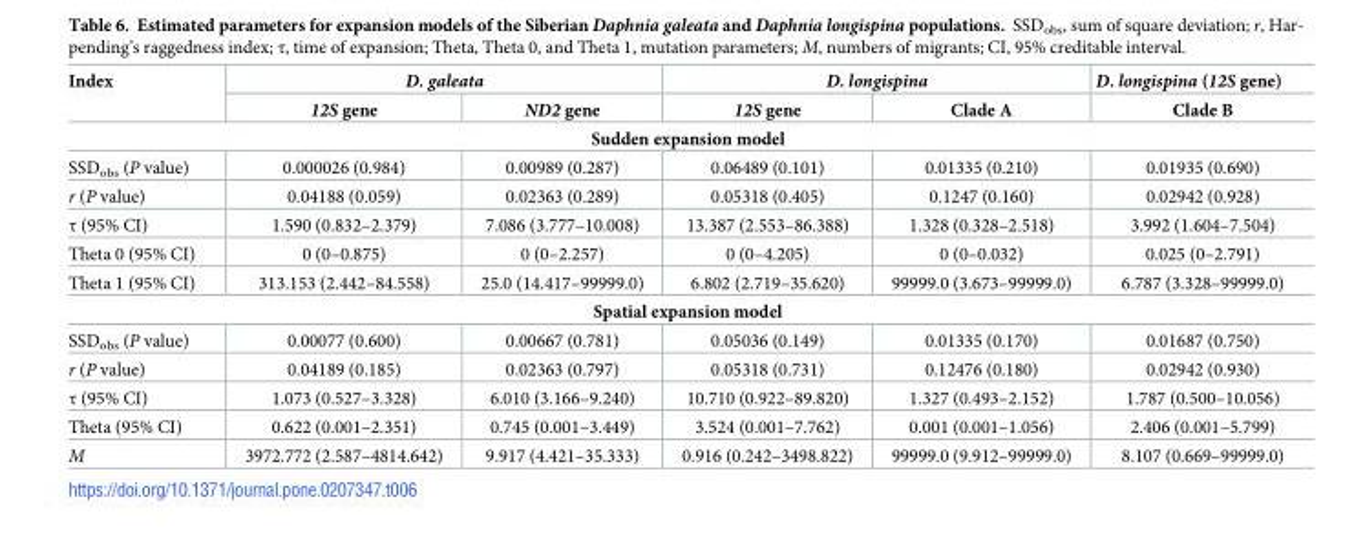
<table><thead><tr><td rowspan="2">Index</td><td colspan="2">D. galeata</td><td colspan="2">D. longispina</td><td rowspan="2">D. longispina (12S gene) Clade B</td></tr><tr><td>12S gene</td><td>ND2 gene</td><td>12S gene</td><td>Clade A</td></tr></thead><tbody><tr><td colspan="6">Sudden expansion model</td></tr><tr><td>SSD<sub>obs</sub> (P value)</td><td>0.000026 (0.984)</td><td>0.00989 (0.287)</td><td>0.06489 (0.101)</td><td>0.01335 (0.210)</td><td>0.01935 (0.690)</td></tr><tr><td>r (P value)</td><td>0.04188 (0.059)</td><td>0.02363 (0.289)</td><td>0.05318 (0.405)</td><td>0.1247 (0.160)</td><td>0.02942 (0.928)</td></tr><tr><td>τ (95% CI)</td><td>1.590 (0.832–2.379)</td><td>7.086 (3.777–10.008)</td><td>13.387 (2.553–86.388)</td><td>1.328 (0.328–2.518)</td><td>3.992 (1.604–7.504)</td></tr><tr><td>Theta 0 (95% CI)</td><td>0 (0–0.875)</td><td>0 (0–2.257)</td><td>0 (0–4.205)</td><td>0 (0–0.032)</td><td>0.025 (0–2.791)</td></tr><tr><td>Theta 1 (95% CI)</td><td>313.153 (2.442–84.558)</td><td>25.0 (14.417–99999.0)</td><td>6.802 (2.719–35.620)</td><td>99999.0 (3.673–99999.0)</td><td>6.787 (3.328–99999.0)</td></tr><tr><td colspan="6">Spatial expansion model</td></tr><tr><td>SSD<sub>obs</sub> (P value)</td><td>0.00077 (0.600)</td><td>0.00667 (0.781)</td><td>0.05036 (0.149)</td><td>0.01335 (0.170)</td><td>0.01687 (0.750)</td></tr><tr><td>r (P value)</td><td>0.04189 (0.185)</td><td>0.02363 (0.797)</td><td>0.05318 (0.731)</td><td>0.12476 (0.180)</td><td>0.02942 (0.930)</td></tr><tr><td>τ (95% CI)</td><td>1.073 (0.527–3.328)</td><td>6.010 (3.166–9.240)</td><td>10.710 (0.922–89.820)</td><td>1.327 (0.493–2.152)</td><td>1.787 (0.500–10.056)</td></tr><tr><td>Theta (95% CI)</td><td>0.622 (0.001–2.351)</td><td>0.745 (0.001–3.449)</td><td>3.524 (0.001–7.762)</td><td>0.001 (0.001–1.056)</td><td>2.406 (0.001–5.799)</td></tr><tr><td>M</td><td>3972.772 (2.587–4814.642)</td><td>9.917 (4.421–35.333)</td><td>0.916 (0.242–3498.822)</td><td>99999.0 (9.912–99999.0)</td><td>8.107 (0.669–99999.0)</td></tr></tbody></table>